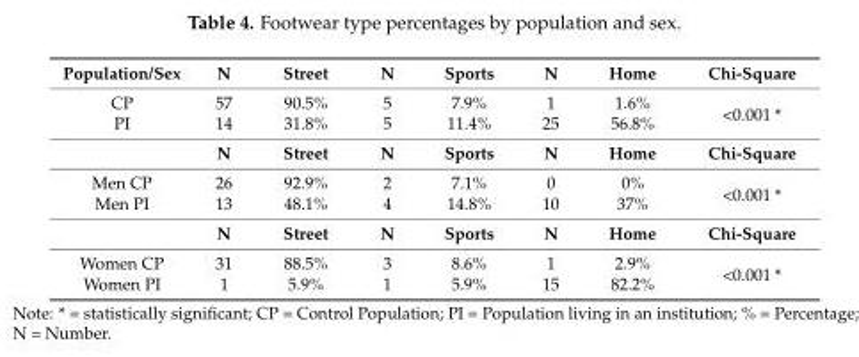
<table><thead><tr><td>Population/Sex</td><td>N</td><td>Street</td><td>N</td><td>Sports</td><td>N</td><td>Home</td><td>Chi-Square</td></tr></thead><tbody><tr><td>CP</td><td>57</td><td>90.5%</td><td>5</td><td>7.9%</td><td>1</td><td>1.6%</td><td rowspan="2">&lt;0.001 *</td></tr><tr><td rowspan="2">PI</td><td>14</td><td>31.8%</td><td>5</td><td>11.4%</td><td>25</td><td>56.8%</td></tr><tr><td>N</td><td>Street</td><td>N</td><td>Sports</td><td>N</td><td>Home</td><td>Chi-Square</td></tr><tr><td>Men CP</td><td>26</td><td>92.9%</td><td>2</td><td>7.1%</td><td>0</td><td>0%</td><td rowspan="2">&lt;0.001 *</td></tr><tr><td rowspan="2">Men PI</td><td>13</td><td>48.1%</td><td>4</td><td>14.8%</td><td>10</td><td>37%</td></tr><tr><td>N</td><td>Street</td><td>N</td><td>Sports</td><td>N</td><td>Home</td><td>Chi-Square</td></tr><tr><td>Women CP</td><td>31</td><td>88.5%</td><td>3</td><td>8.6%</td><td>1</td><td>2.9%</td><td rowspan="2">&lt;0.001 *</td></tr><tr><td>Women PI</td><td>1</td><td>5.9%</td><td>1</td><td>5.9%</td><td>15</td><td>82.2%</td></tr></tbody></table>